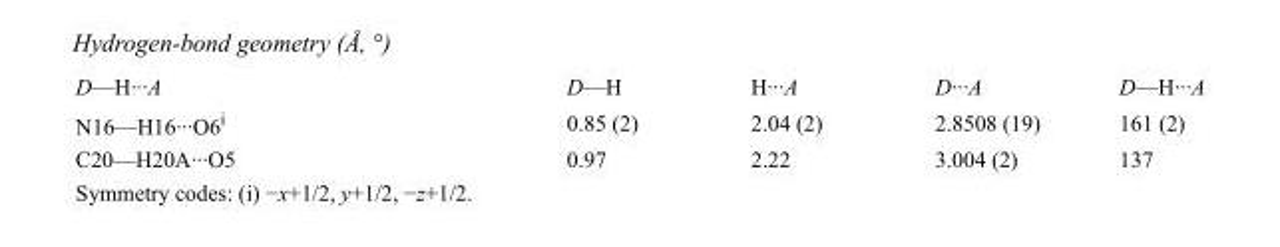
<table><tbody><tr><td>D—H···A</td><td>D—H</td><td>H···A</td><td>D···A</td><td>D—H···A</td></tr><tr><td>N16—H16···O6<sup>i</sup></td><td>0.85 (2)</td><td>2.04 (2)</td><td>2.8508 (19)</td><td>161 (2)</td></tr><tr><td>C20—H20A···O5</td><td>0.97</td><td>2.22</td><td>3.004 (2)</td><td>137</td></tr></tbody></table>